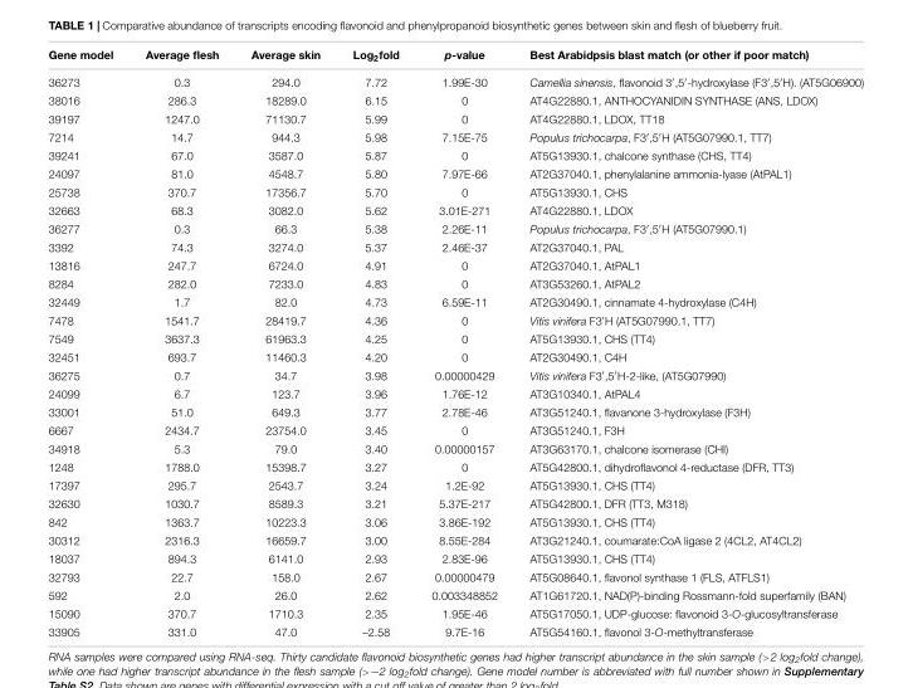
<table><thead><tr><td>Gene model</td><td>Average flesh</td><td>Average skin</td><td>Log<sub>2</sub>fold</td><td>p-value</td><td>Best Arabidpsis blast match (or other if poor match)</td></tr></thead><tbody><tr><td>36273</td><td>0.3</td><td>294.0</td><td>7.72</td><td>1.99E-30</td><td>Camellia sinensis, flavonoid 3′,5′-hydroxylase (F3′,5′H). (AT5G06900)</td></tr><tr><td>38016</td><td>286.3</td><td>18289.0</td><td>6.15</td><td>0</td><td>AT4G22880.1, ANTHOCYANIDIN SYNTHASE (ANS, LDOX)</td></tr><tr><td>39197</td><td>1247.0</td><td>71130.7</td><td>5.99</td><td>0</td><td>AT4G22880.1, LDOX, TT18</td></tr><tr><td>7214</td><td>14.7</td><td>944.3</td><td>5.98</td><td>7.15E-75</td><td>Populus trichocarpa, F3′,5′H (AT5G07990.1, TT7)</td></tr><tr><td>39241</td><td>67.0</td><td>3587.0</td><td>5.87</td><td>0</td><td>AT5G13930.1, chalcone synthase (CHS, TT4)</td></tr><tr><td>24097</td><td>81.0</td><td>4548.7</td><td>5.80</td><td>7.97E-66</td><td>AT2G37040.1, phenylalanine ammonia-lyase (AtPAL1)</td></tr><tr><td>25738</td><td>370.7</td><td>17356.7</td><td>5.70</td><td>0</td><td>AT5G13930.1, CHS</td></tr><tr><td>32663</td><td>68.3</td><td>3082.0</td><td>5.62</td><td>3.01E-271</td><td>AT4G22880.1, LDOX</td></tr><tr><td>36277</td><td>0.3</td><td>66.3</td><td>5.38</td><td>2.26E-11</td><td>Populus trichocarpa, F3′,5′H (AT5G07990.1)</td></tr><tr><td>3392</td><td>74.3</td><td>3274.0</td><td>5.37</td><td>2.46E-37</td><td>AT2G37040.1, PAL</td></tr><tr><td>13816</td><td>247.7</td><td>6724.0</td><td>4.91</td><td>0</td><td>AT2G37040.1, AtPAL1</td></tr><tr><td>8284</td><td>282.0</td><td>7233.0</td><td>4.83</td><td>0</td><td>AT3G53260.1, AtPAL2</td></tr><tr><td>32449</td><td>1.7</td><td>82.0</td><td>4.73</td><td>6.59E-11</td><td>AT2G30490.1, cinnamate 4-hydroxylase (C4H)</td></tr><tr><td>7478</td><td>1541.7</td><td>28419.7</td><td>4.36</td><td>0</td><td>Vitis vinifera F3′H (AT5G07990.1, TT7)</td></tr><tr><td>7549</td><td>3637.3</td><td>61963.3</td><td>4.25</td><td>0</td><td>AT5G13930.1, CHS (TT4)</td></tr><tr><td>32451</td><td>693.7</td><td>11460.3</td><td>4.20</td><td>0</td><td>AT2G30490.1, C4H</td></tr><tr><td>36275</td><td>0.7</td><td>34.7</td><td>3.98</td><td>0.00000429</td><td>Vitis vinifera F3′,5′H-2-like, (AT5G07990)</td></tr><tr><td>24099</td><td>6.7</td><td>123.7</td><td>3.96</td><td>1.76E-12</td><td>AT3G10340.1, AtPAL4</td></tr><tr><td>33001</td><td>51.0</td><td>649.3</td><td>3.77</td><td>2.78E-46</td><td>AT3G51240.1, flavanone 3-hydroxylase (F3H)</td></tr><tr><td>6667</td><td>2434.7</td><td>23754.0</td><td>3.45</td><td>0</td><td>AT3G51240.1, F3H</td></tr><tr><td>34918</td><td>5.3</td><td>79.0</td><td>3.40</td><td>0.00000157</td><td>AT3G63170.1, chalcone isomerase (CHI)</td></tr><tr><td>1248</td><td>1788.0</td><td>15398.7</td><td>3.27</td><td>0</td><td>AT5G42800.1, dihydroflavonol 4-reductase (DFR, TT3)</td></tr><tr><td>17397</td><td>295.7</td><td>2543.7</td><td>3.24</td><td>1.2E-92</td><td>AT5G13930.1, CHS (TT4)</td></tr><tr><td>32630</td><td>1030.7</td><td>8589.3</td><td>3.21</td><td>5.37E-217</td><td>AT5G42800.1, DFR (TT3, M318)</td></tr><tr><td>842</td><td>1363.7</td><td>10223.3</td><td>3.06</td><td>3.86E-192</td><td>AT5G13930.1, CHS (TT4)</td></tr><tr><td>30312</td><td>2316.3</td><td>16659.7</td><td>3.00</td><td>8.55E-284</td><td>AT3G21240.1, coumarate:CoA ligase 2 (4CL2, AT4CL2)</td></tr><tr><td>18037</td><td>894.3</td><td>6141.0</td><td>2.93</td><td>2.83E-96</td><td>AT5G13930.1, CHS (TT4)</td></tr><tr><td>32793</td><td>22.7</td><td>158.0</td><td>2.67</td><td>0.00000479</td><td>AT5G08640.1, flavonol synthase 1 (FLS, ATFLS1)</td></tr><tr><td>592</td><td>2.0</td><td>26.0</td><td>2.62</td><td>0.003348852</td><td>AT1G61720.1, NAD(P)-binding Rossmann-fold superfamily (BAN)</td></tr><tr><td>15090</td><td>370.7</td><td>1710.3</td><td>2.35</td><td>1.95E-46</td><td>AT5G17050.1, UDP-glucose: flavonoid 3-O-glucosyltransferase</td></tr><tr><td>33905</td><td>331.0</td><td>47.0</td><td>–2.58</td><td>9.7E-16</td><td>AT5G54160.1, flavonol 3-O-methyltransferase</td></tr></tbody></table>